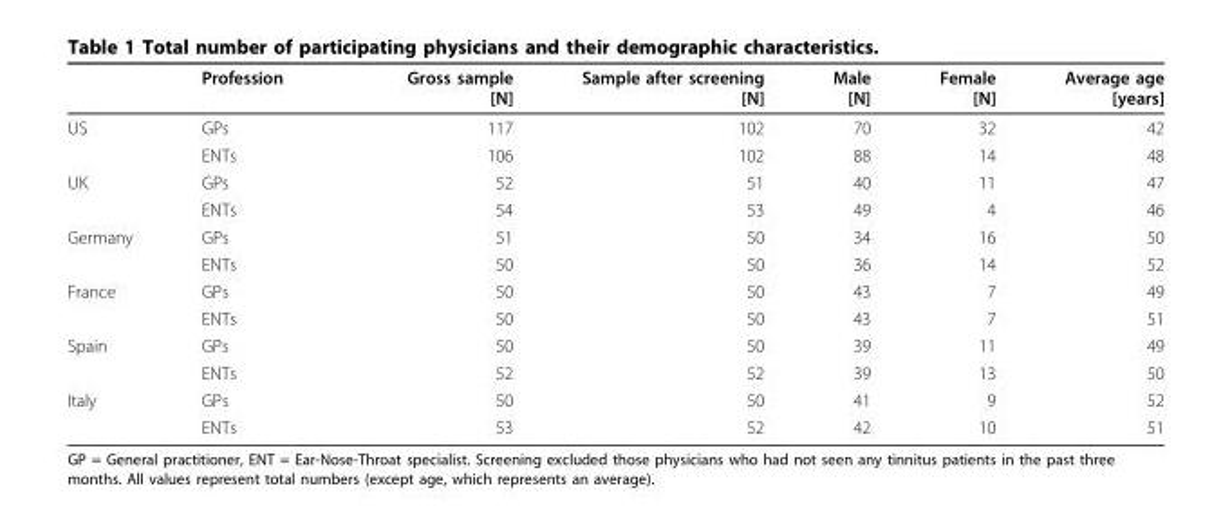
<table><thead><tr><td></td><td>Profession</td><td>Gross sample [N]</td><td>Sample after screening [N]</td><td>Male [N]</td><td>Female [N]</td><td>Average age [years]</td></tr></thead><tbody><tr><td rowspan="2">US</td><td>GPs</td><td>117</td><td>102</td><td>70</td><td>32</td><td>42</td></tr><tr><td>ENTs</td><td>106</td><td>102</td><td>88</td><td>14</td><td>48</td></tr><tr><td rowspan="2">UK</td><td>GPs</td><td>52</td><td>51</td><td>40</td><td>11</td><td>47</td></tr><tr><td>ENTs</td><td>54</td><td>53</td><td>49</td><td>4</td><td>46</td></tr><tr><td rowspan="2">Germany</td><td>GPs</td><td>51</td><td>50</td><td>34</td><td>16</td><td>50</td></tr><tr><td>ENTs</td><td>50</td><td>50</td><td>36</td><td>14</td><td>52</td></tr><tr><td rowspan="2">France</td><td>GPs</td><td>50</td><td>50</td><td>43</td><td>7</td><td>49</td></tr><tr><td>ENTs</td><td>50</td><td>50</td><td>43</td><td>7</td><td>51</td></tr><tr><td rowspan="2">Spain</td><td>GPs</td><td>50</td><td>50</td><td>39</td><td>11</td><td>49</td></tr><tr><td>ENTs</td><td>52</td><td>52</td><td>39</td><td>13</td><td>50</td></tr><tr><td rowspan="2">Italy</td><td>GPs</td><td>50</td><td>50</td><td>41</td><td>9</td><td>52</td></tr><tr><td>ENTs</td><td>53</td><td>52</td><td>42</td><td>10</td><td>51</td></tr></tbody></table>